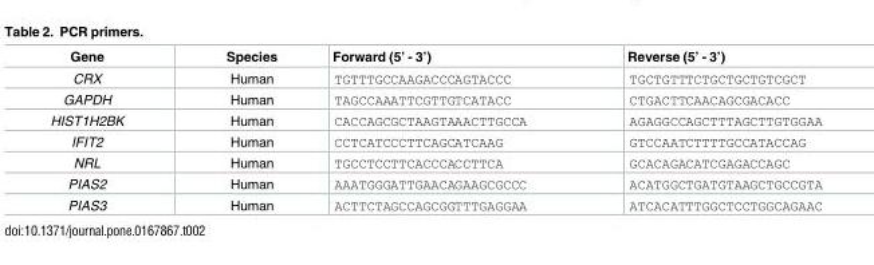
<table><thead><tr><td>Gene</td><td>Species</td><td>Forward (5’ - 3’)</td><td>Reverse (5’ - 3’)</td></tr></thead><tbody><tr><td>CRX</td><td>Human</td><td>TGTTTGCCAAGACCCAGTACCC</td><td>TGCTGTTTCTGCTGCTGTCGCT</td></tr><tr><td>GAPDH</td><td>Human</td><td>TAGCCAAATTCGTTGTCATACC</td><td>CTGACTTCAACAGCGACACC</td></tr><tr><td>HIST1H2BK</td><td>Human</td><td>CACCAGCGCTAAGTAAACTTGCCA</td><td>AGAGGCCAGCTTTAGCTTGTGGAA</td></tr><tr><td>IFIT2</td><td>Human</td><td>CCTCATCCCTTCAGCATCAAG</td><td>GTCCAATCTTTTGCCATACCAG</td></tr><tr><td>NRL</td><td>Human</td><td>TGCCTCCTTCACCCACCTTCA</td><td>GCACAGACATCGAGACCAGC</td></tr><tr><td>PIAS2</td><td>Human</td><td>AAATGGGATTGAACAGAAGCGCCC</td><td>ACATGGCTGATGTAAGCTGCCGTA</td></tr><tr><td>PIAS3</td><td>Human</td><td>ACTTCTAGCCAGCGGTTTGAGGAA</td><td>ATCACATTTGGCTCCTGGCAGAAC</td></tr></tbody></table>